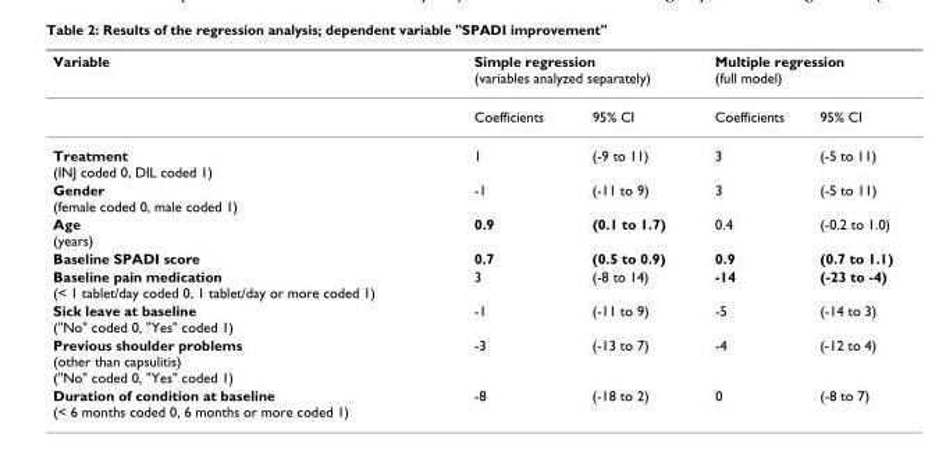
<table><thead><tr><td rowspan="2">Variable</td><td colspan="2">Simple regression (variables analyzed separately)</td><td colspan="2">Multiple regression (full model)</td></tr><tr><td>Coefficients</td><td>95% CI</td><td>Coefficients</td><td>95% CI</td></tr></thead><tbody><tr><td>Treatment (INJ coded 0, DIL coded 1)</td><td>1</td><td>(-9 to 11)</td><td>3</td><td>(-5 to 11)</td></tr><tr><td>Gender (female coded 0, male coded 1)</td><td>-1</td><td>(-11 to 9)</td><td>3</td><td>(-5 to 11)</td></tr><tr><td>Age (years)</td><td>0.9</td><td>(0.1 to 1.7)</td><td>0.4</td><td>(-0.2 to 1.0)</td></tr><tr><td>Baseline SPADI score</td><td>0.7</td><td>(0.5 to 0.9)</td><td>0.9</td><td>(0.7 to 1.1)</td></tr><tr><td>Baseline pain medication (&lt; 1 tablet/day coded 0, 1 tablet/day or more coded 1)</td><td>3</td><td>(-8 to 14)</td><td>-14</td><td>(-23 to -4)</td></tr><tr><td>Sick leave at baseline (&quot;No&quot; coded 0, &quot;Yes&quot; coded 1)</td><td>-1</td><td>(-11 to 9)</td><td>-5</td><td>(-14 to 3)</td></tr><tr><td>Previous shoulder problems (other than capsulitis) (&quot;No&quot; coded 0, &quot;Yes&quot; coded 1)</td><td>-3</td><td>(-13 to 7)</td><td>-4</td><td>(-12 to 4)</td></tr><tr><td>Duration of condition at baseline (&lt; 6 months coded 0, 6 months or more coded 1)</td><td>-8</td><td>(-18 to 2)</td><td>0</td><td>(-8 to 7)</td></tr></tbody></table>